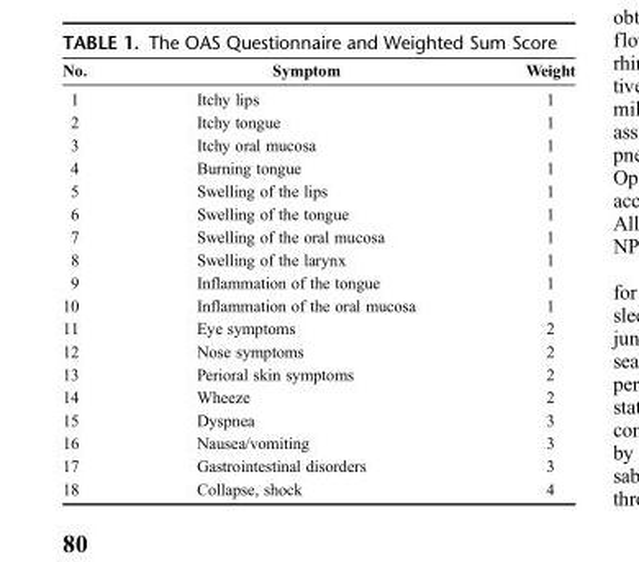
<table><thead><tr><td>No.</td><td>Symptom</td><td>Weight</td></tr></thead><tbody><tr><td>1</td><td>Itchy lips</td><td>1</td></tr><tr><td>2</td><td>Itchy tongue</td><td>1</td></tr><tr><td>3</td><td>Itchy oral mucosa</td><td>1</td></tr><tr><td>4</td><td>Burning tongue</td><td>1</td></tr><tr><td>5</td><td>Swelling of the lips</td><td>1</td></tr><tr><td>6</td><td>Swelling of the tongue</td><td>1</td></tr><tr><td>7</td><td>Swelling of the oral mucosa</td><td>1</td></tr><tr><td>8</td><td>Swelling of the larynx</td><td>1</td></tr><tr><td>9</td><td>Inflammation of the tongue</td><td>1</td></tr><tr><td>10</td><td>Inflammation of the oral mucosa</td><td>1</td></tr><tr><td>11</td><td>Eye symptoms</td><td>2</td></tr><tr><td>12</td><td>Nose symptoms</td><td>2</td></tr><tr><td>13</td><td>Perioral skin symptoms</td><td>2</td></tr><tr><td>14</td><td>Wheeze</td><td>2</td></tr><tr><td>15</td><td>Dyspnea</td><td>3</td></tr><tr><td>16</td><td>Nausea/vomiting</td><td>3</td></tr><tr><td>17</td><td>Gastrointestinal disorders</td><td>3</td></tr><tr><td>18</td><td>Collapse, shock</td><td>4</td></tr></tbody></table>